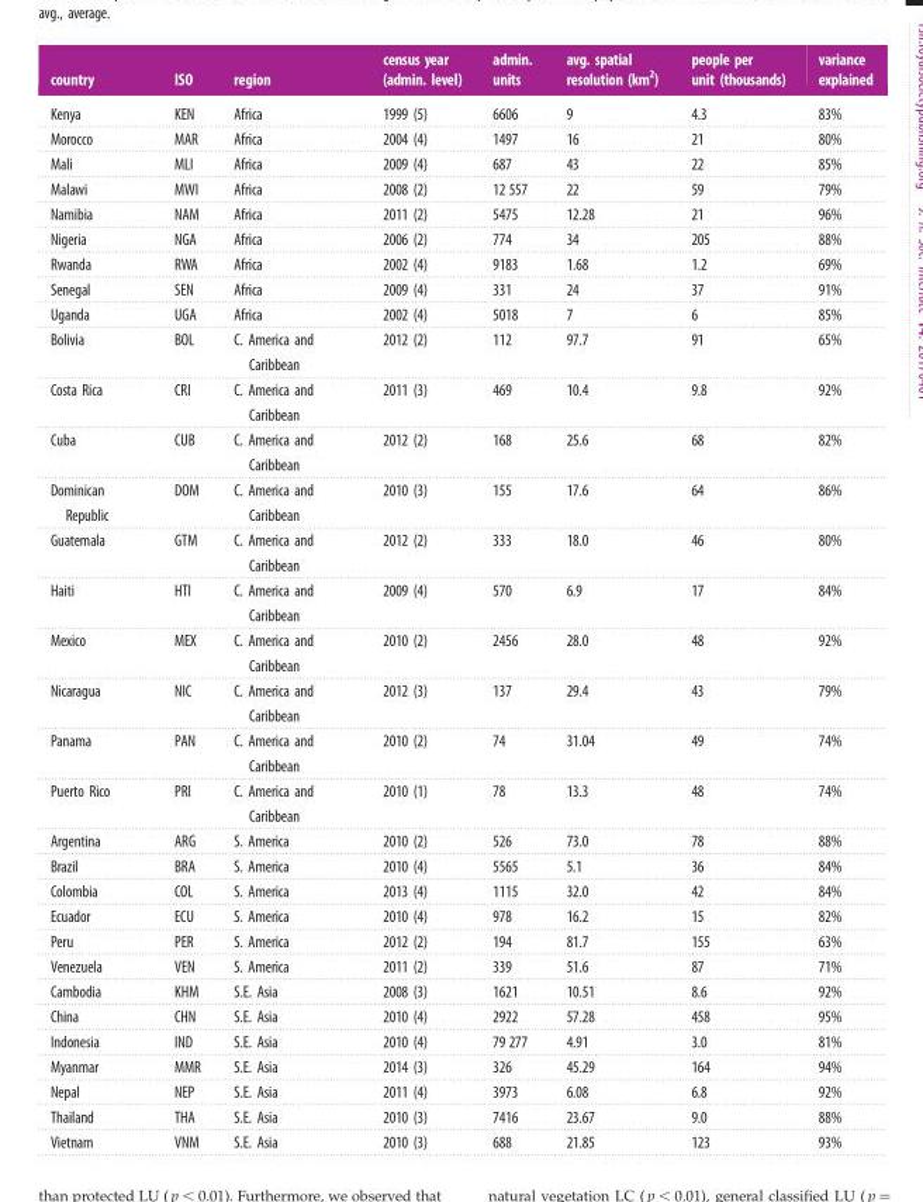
<table><thead><tr><td>country</td><td>ISO</td><td>region</td><td>census year (admin. level)</td><td>admin. units</td><td>avg. spatial resolution (km<sup>2</sup>)</td><td>people per unit (thousands)</td><td>variance explained</td></tr></thead><tbody><tr><td>Kenya</td><td>KEN</td><td>Africa</td><td>1999 (5)</td><td>6606</td><td>9</td><td>4.3</td><td>83%</td></tr><tr><td>Morocco</td><td>MAR</td><td>Africa</td><td>2004 (4)</td><td>1497</td><td>16</td><td>21</td><td>80%</td></tr><tr><td>Mali</td><td>MLI</td><td>Africa</td><td>2009 (4)</td><td>687</td><td>43</td><td>22</td><td>85%</td></tr><tr><td>Malawi</td><td>MWI</td><td>Africa</td><td>2008 (2)</td><td>12 557</td><td>22</td><td>59</td><td>79%</td></tr><tr><td>Namibia</td><td>NAM</td><td>Africa</td><td>2011 (2)</td><td>5475</td><td>12.28</td><td>21</td><td>96%</td></tr><tr><td>Nigeria</td><td>NGA</td><td>Africa</td><td>2006 (2)</td><td>774</td><td>34</td><td>205</td><td>88%</td></tr><tr><td>Rwanda</td><td>RWA</td><td>Africa</td><td>2002 (4)</td><td>9183</td><td>1.68</td><td>1.2</td><td>69%</td></tr><tr><td>Senegal</td><td>SEN</td><td>Africa</td><td>2009 (4)</td><td>331</td><td>24</td><td>37</td><td>91%</td></tr><tr><td>Uganda</td><td>UGA</td><td>Africa</td><td>2002 (4)</td><td>5018</td><td>7</td><td>6</td><td>85%</td></tr><tr><td>Bolivia</td><td>BOL</td><td>C. America and Caribbean</td><td>2012 (2)</td><td>112</td><td>97.7</td><td>91</td><td>65%</td></tr><tr><td>Costa Rica</td><td>CRI</td><td>C. America and Caribbean</td><td>2011 (3)</td><td>469</td><td>10.4</td><td>9.8</td><td>92%</td></tr><tr><td>Cuba</td><td>CUB</td><td>C. America and Caribbean</td><td>2012 (2)</td><td>168</td><td>25.6</td><td>68</td><td>82%</td></tr><tr><td>Dominican Republic</td><td>DOM</td><td>C. America and Caribbean</td><td>2010 (3)</td><td>155</td><td>17.6</td><td>64</td><td>86%</td></tr><tr><td>Guatemala</td><td>GTM</td><td>C. America and Caribbean</td><td>2012 (2)</td><td>333</td><td>18.0</td><td>46</td><td>80%</td></tr><tr><td>Haiti</td><td>HTI</td><td>C. America and Caribbean</td><td>2009 (4)</td><td>570</td><td>6.9</td><td>17</td><td>84%</td></tr><tr><td>Mexico</td><td>MEX</td><td>C. America and Caribbean</td><td>2010 (2)</td><td>2456</td><td>28.0</td><td>48</td><td>92%</td></tr><tr><td>Nicaragua</td><td>NIC</td><td>C. America and Caribbean</td><td>2012 (3)</td><td>137</td><td>29.4</td><td>43</td><td>79%</td></tr><tr><td>Panama</td><td>PAN</td><td>C. America and Caribbean</td><td>2010 (2)</td><td>74</td><td>31.04</td><td>49</td><td>74%</td></tr><tr><td>Puerto Rico</td><td>PRI</td><td>C. America and Caribbean</td><td>2010 (1)</td><td>78</td><td>13.3</td><td>48</td><td>74%</td></tr><tr><td>Argentina</td><td>ARG</td><td>S. America</td><td>2010 (2)</td><td>526</td><td>73.0</td><td>78</td><td>88%</td></tr><tr><td>Brazil</td><td>BRA</td><td>S. America</td><td>2010 (4)</td><td>5565</td><td>5.1</td><td>36</td><td>84%</td></tr><tr><td>Colombia</td><td>COL</td><td>S. America</td><td>2013 (4)</td><td>1115</td><td>32.0</td><td>42</td><td>84%</td></tr><tr><td>Ecuador</td><td>ECU</td><td>S. America</td><td>2010 (4)</td><td>978</td><td>16.2</td><td>15</td><td>82%</td></tr><tr><td>Peru</td><td>PER</td><td>S. America</td><td>2012 (2)</td><td>194</td><td>81.7</td><td>155</td><td>63%</td></tr><tr><td>Venezuela</td><td>VEN</td><td>S. America</td><td>2011 (2)</td><td>339</td><td>51.6</td><td>87</td><td>71%</td></tr><tr><td>Cambodia</td><td>KHM</td><td>S.E. Asia</td><td>2008 (3)</td><td>1621</td><td>10.51</td><td>8.6</td><td>92%</td></tr><tr><td>China</td><td>CHN</td><td>S.E. Asia</td><td>2010 (4)</td><td>2922</td><td>57.28</td><td>458</td><td>95%</td></tr><tr><td>Indonesia</td><td>IND</td><td>S.E. Asia</td><td>2010 (4)</td><td>79 277</td><td>4.91</td><td>3.0</td><td>81%</td></tr><tr><td>Myanmar</td><td>MMR</td><td>S.E. Asia</td><td>2014 (3)</td><td>326</td><td>45.29</td><td>164</td><td>94%</td></tr><tr><td>Nepal</td><td>NEP</td><td>S.E. Asia</td><td>2011 (4)</td><td>3973</td><td>6.08</td><td>6.8</td><td>92%</td></tr><tr><td>Thailand</td><td>THA</td><td>S.E. Asia</td><td>2010 (3)</td><td>7416</td><td>23.67</td><td>9.0</td><td>88%</td></tr><tr><td>Vietnam</td><td>VNM</td><td>S.E. Asia</td><td>2010 (3)</td><td>688</td><td>21.85</td><td>123</td><td>93%</td></tr></tbody></table>